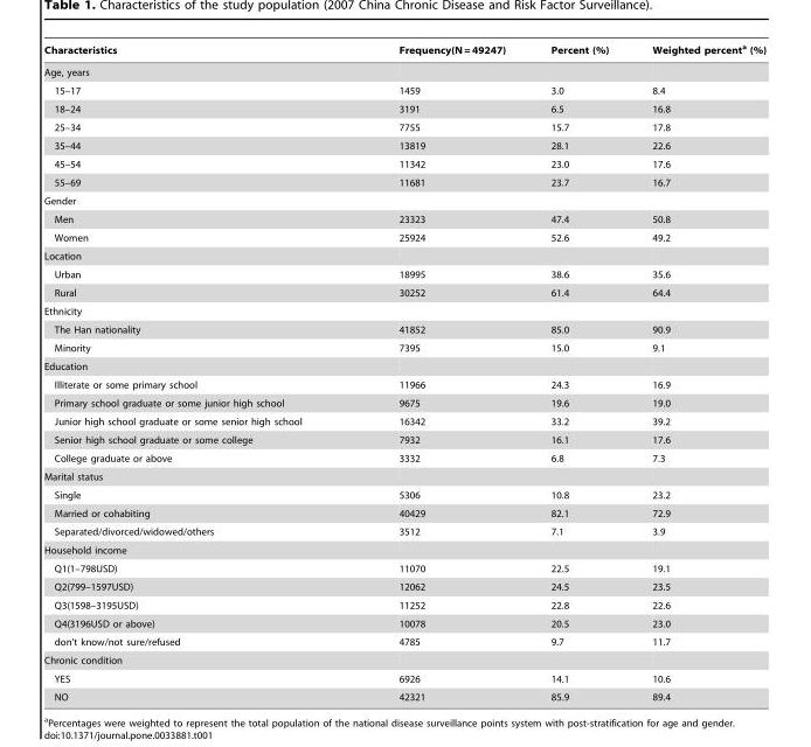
<table><thead><tr><td>Characteristics</td><td>Frequency(N = 49247)</td><td>Percent (%)</td><td>Weighted percent<sup>a</sup> (%)</td></tr></thead><tbody><tr><td colspan="4">Age, years</td></tr><tr><td>15–17</td><td>1459</td><td>3.0</td><td>8.4</td></tr><tr><td>18–24</td><td>3191</td><td>6.5</td><td>16.8</td></tr><tr><td>25–34</td><td>7755</td><td>15.7</td><td>17.8</td></tr><tr><td>35–44</td><td>13819</td><td>28.1</td><td>22.6</td></tr><tr><td>45–54</td><td>11342</td><td>23.0</td><td>17.6</td></tr><tr><td>55–69</td><td>11681</td><td>23.7</td><td>16.7</td></tr><tr><td colspan="4">Gender</td></tr><tr><td>Men</td><td>23323</td><td>47.4</td><td>50.8</td></tr><tr><td>Women</td><td>25924</td><td>52.6</td><td>49.2</td></tr><tr><td colspan="4">Location</td></tr><tr><td>Urban</td><td>18995</td><td>38.6</td><td>35.6</td></tr><tr><td>Rural</td><td>30252</td><td>61.4</td><td>64.4</td></tr><tr><td colspan="4">Ethnicity</td></tr><tr><td>The Han nationality</td><td>41852</td><td>85.0</td><td>90.9</td></tr><tr><td>Minority</td><td>7395</td><td>15.0</td><td>9.1</td></tr><tr><td colspan="4">Education</td></tr><tr><td>Illiterate or some primary school</td><td>11966</td><td>24.3</td><td>16.9</td></tr><tr><td>Primary school graduate or some junior high school</td><td>9675</td><td>19.6</td><td>19.0</td></tr><tr><td>Junior high school graduate or some senior high school</td><td>16342</td><td>33.2</td><td>39.2</td></tr><tr><td>Senior high school graduate or some college</td><td>7932</td><td>16.1</td><td>17.6</td></tr><tr><td>College graduate or above</td><td>3332</td><td>6.8</td><td>7.3</td></tr><tr><td colspan="4">Marital status</td></tr><tr><td>Single</td><td>5306</td><td>10.8</td><td>23.2</td></tr><tr><td>Married or cohabiting</td><td>40429</td><td>82.1</td><td>72.9</td></tr><tr><td>Separated/divorced/widowed/others</td><td>3512</td><td>7.1</td><td>3.9</td></tr><tr><td colspan="4">Household income</td></tr><tr><td>Q1(1–798USD)</td><td>11070</td><td>22.5</td><td>19.1</td></tr><tr><td>Q2(799–1597USD)</td><td>12062</td><td>24.5</td><td>23.5</td></tr><tr><td>Q3(1598–3195USD)</td><td>11252</td><td>22.8</td><td>22.6</td></tr><tr><td>Q4(3196USD or above)</td><td>10078</td><td>20.5</td><td>23.0</td></tr><tr><td>don’t know/not sure/refused</td><td>4785</td><td>9.7</td><td>11.7</td></tr><tr><td colspan="4">Chronic condition</td></tr><tr><td>YES</td><td>6926</td><td>14.1</td><td>10.6</td></tr><tr><td>NO</td><td>42321</td><td>85.9</td><td>89.4</td></tr></tbody></table>